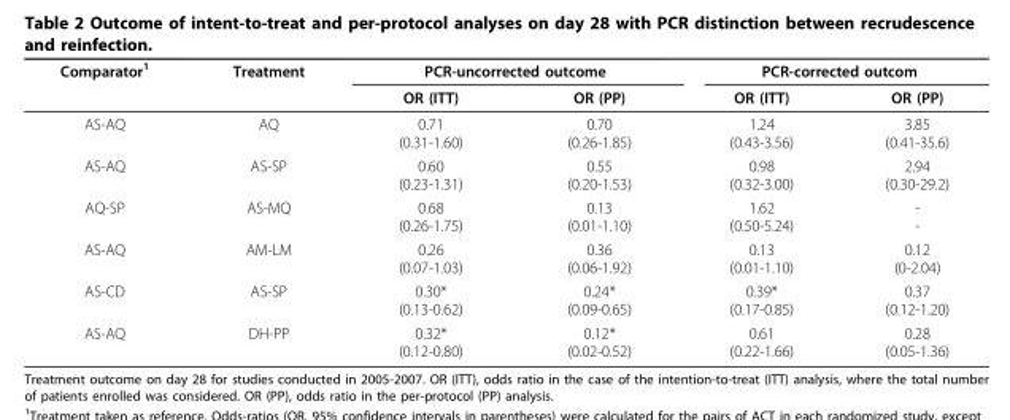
<table><thead><tr><td rowspan="2">Comparator<sup>1</sup></td><td rowspan="2">Treatment</td><td colspan="2">PCR-uncorrected outcome</td><td colspan="2">PCR-corrected outcom</td></tr><tr><td>OR (ITT)</td><td>OR (PP)</td><td>OR (ITT)</td><td>OR (PP)</td></tr></thead><tbody><tr><td>AS-AQ</td><td>AQ</td><td>0.71 (0.31-1.60)</td><td>0.70 (0.26-1.85)</td><td>1.24 (0.43-3.56)</td><td>3.85 (0.41-35.6)</td></tr><tr><td>AS-AQ</td><td>AS-SP</td><td>0.60 (0.23-1.31)</td><td>0.55 (0.20-1.53)</td><td>0.98 (0.32-3.00)</td><td>2.94 (0.30-29.2)</td></tr><tr><td>AQ-SP</td><td>AS-MQ</td><td>0.68 (0.26-1.75)</td><td>0.13 (0.01-1.10)</td><td>1.62 (0.50-5.24)</td><td>- -</td></tr><tr><td>AS-AQ</td><td>AM-LM</td><td>0.26 (0.07-1.03)</td><td>0.36 (0.06-1.92)</td><td>0.13 (0.01-1.10)</td><td>0.12 (0-2.04)</td></tr><tr><td>AS-CD</td><td>AS-SP</td><td>0.30* (0.13-0.62)</td><td>0.24* (0.09-0.65)</td><td>0.39* (0.17-0.85)</td><td>0.37 (0.12-1.20)</td></tr><tr><td>AS-AQ</td><td>DH-PP</td><td>0.32* (0.12-0.80)</td><td>0.12* (0.02-0.52)</td><td>0.61 (0.22-1.66)</td><td>0.28 (0.05-1.36)</td></tr></tbody></table>